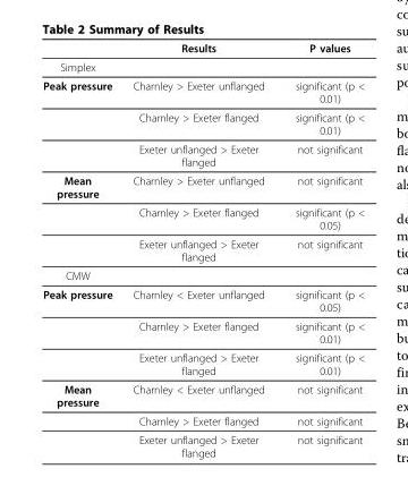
<table><thead><tr><td></td><td>Results</td><td>P values</td></tr></thead><tbody><tr><td colspan="3">Simplex</td></tr><tr><td rowspan="3">Peak pressure</td><td>Charnley &gt; Exeter unflanged</td><td>significant (p &lt; 0.01)</td></tr><tr><td>Charnley &gt; Exeter flanged</td><td>significant (p &lt; 0.01)</td></tr><tr><td>Exeter unflanged &gt; Exeter flanged</td><td>not significant</td></tr><tr><td rowspan="3">Mean pressure</td><td>Charnley &gt; Exeter unflanged</td><td>not significant</td></tr><tr><td>Charnley &gt; Exeter flanged</td><td>significant (p &lt; 0.05)</td></tr><tr><td>Exeter unflanged &gt; Exeter flanged</td><td>not significant</td></tr><tr><td colspan="3">CMW</td></tr><tr><td rowspan="3">Peak pressure</td><td>Charnley &lt; Exeter unflanged</td><td>significant (p &lt; 0.05)</td></tr><tr><td>Charnley &gt; Exeter flanged</td><td>significant (p &lt; 0.01)</td></tr><tr><td>Exeter unflanged &gt; Exeter flanged</td><td>significant (p &lt; 0.01)</td></tr><tr><td rowspan="3">Mean pressure</td><td>Charnley &lt; Exeter unflanged</td><td>not significant</td></tr><tr><td>Charnley &gt; Exeter flanged</td><td>not significant</td></tr><tr><td>Exeter unflanged &gt; Exeter flanged</td><td>not significant</td></tr></tbody></table>